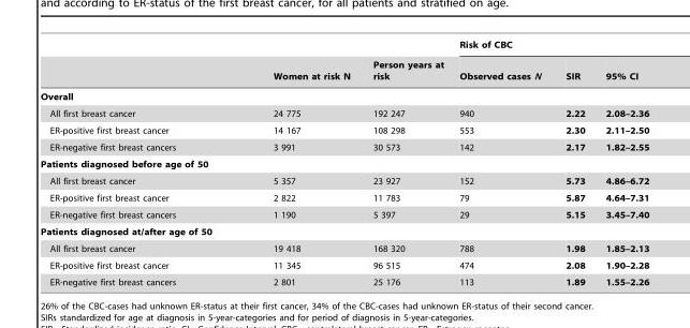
<table><thead><tr><td rowspan="2"></td><td rowspan="2">Women at risk N</td><td rowspan="2">Person years at risk</td><td colspan="3">Risk of CBC</td></tr><tr><td>Observed cases N</td><td>SIR</td><td>95% CI</td></tr></thead><tbody><tr><td colspan="6">Overall</td></tr><tr><td>All first breast cancer</td><td>24 775</td><td>192 247</td><td>940</td><td>2.22</td><td>2.08–2.36</td></tr><tr><td>ER-positive first breast cancer</td><td>14 167</td><td>108 298</td><td>553</td><td>2.30</td><td>2.11–2.50</td></tr><tr><td>ER-negative first breast cancers</td><td>3 991</td><td>30 573</td><td>142</td><td>2.17</td><td>1.82–2.55</td></tr><tr><td colspan="6">Patients diagnosed before age of 50</td></tr><tr><td>All first breast cancer</td><td>5 357</td><td>23 927</td><td>152</td><td>5.73</td><td>4.86–6.72</td></tr><tr><td>ER-positive first breast cancer</td><td>2 822</td><td>11 783</td><td>79</td><td>5.87</td><td>4.64–7.31</td></tr><tr><td>ER-negative first breast cancers</td><td>1 190</td><td>5 397</td><td>29</td><td>5.15</td><td>3.45–7.40</td></tr><tr><td colspan="6">Patients diagnosed at/after age of 50</td></tr><tr><td>All first breast cancer</td><td>19 418</td><td>168 320</td><td>788</td><td>1.98</td><td>1.85–2.13</td></tr><tr><td>ER-positive first breast cancer</td><td>11 345</td><td>96 515</td><td>474</td><td>2.08</td><td>1.90–2.28</td></tr><tr><td>ER-negative first breast cancers</td><td>2 801</td><td>25 176</td><td>113</td><td>1.89</td><td>1.55–2.26</td></tr></tbody></table>